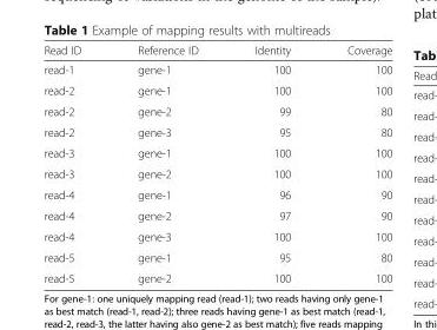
<table><thead><tr><td>Read ID</td><td>Reference ID</td><td>Identity</td><td>Coverage</td></tr></thead><tbody><tr><td>read-1</td><td>gene-1</td><td>100</td><td>100</td></tr><tr><td>read-2</td><td>gene-1</td><td>100</td><td>100</td></tr><tr><td>read-2</td><td>gene-2</td><td>99</td><td>80</td></tr><tr><td>read-2</td><td>gene-3</td><td>95</td><td>80</td></tr><tr><td>read-3</td><td>gene-1</td><td>100</td><td>100</td></tr><tr><td>read-3</td><td>gene-2</td><td>100</td><td>100</td></tr><tr><td>read-4</td><td>gene-1</td><td>96</td><td>90</td></tr><tr><td>read-4</td><td>gene-2</td><td>97</td><td>90</td></tr><tr><td>read-4</td><td>gene-3</td><td>100</td><td>100</td></tr><tr><td>read-5</td><td>gene-1</td><td>95</td><td>80</td></tr><tr><td>read-5</td><td>gene-2</td><td>100</td><td>100</td></tr></tbody></table>